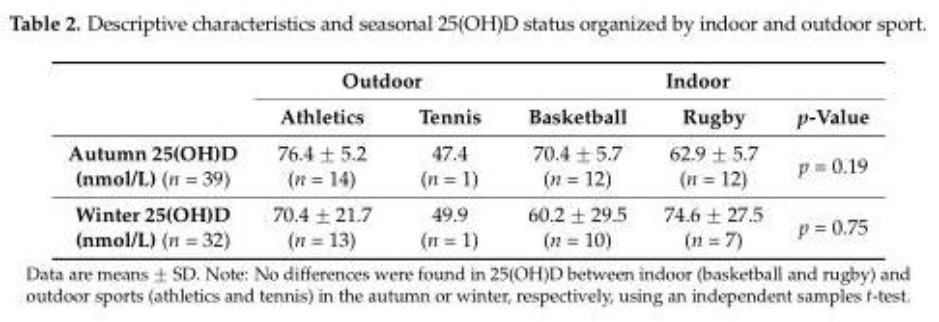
<table><thead><tr><td rowspan="2"></td><td colspan="2">Outdoor</td><td colspan="3">Indoor</td></tr><tr><td>Athletics</td><td>Tennis</td><td>Basketball</td><td>Rugby</td><td>p-Value</td></tr></thead><tbody><tr><td>Autumn 25(OH)D (nmol/L) (n = 39)</td><td>76.4 ˘ 5.2 (n = 14)</td><td>47.4 (n = 1)</td><td>70.4 ˘ 5.7 (n = 12)</td><td>62.9 ˘ 5.7 (n = 12)</td><td>p = 0.19</td></tr><tr><td>Winter 25(OH)D (nmol/L) (n = 32)</td><td>70.4 ˘ 21.7 (n = 13)</td><td>49.9 (n = 1)</td><td>60.2 ˘ 29.5 (n = 10)</td><td>74.6 ˘ 27.5 (n = 7)</td><td>p = 0.75</td></tr></tbody></table>